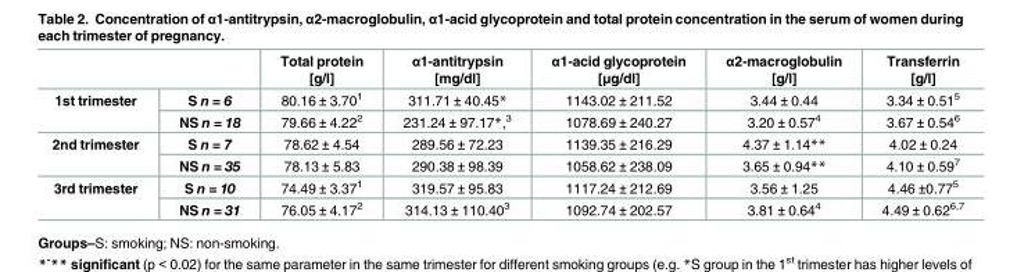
<table><thead><tr><td></td><td></td><td>Total protein [g/l]</td><td>α1-antitrypsin [mg/dl]</td><td>α1-acid glycoprotein [μg/dl]</td><td>α2-macroglobulin [g/l]</td><td>Transferrin [g/l]</td></tr></thead><tbody><tr><td rowspan="2">1st trimester</td><td>S n = 6</td><td>80.16 ± 3.70<sup>1</sup></td><td>311.71 ± 40.45*</td><td>1143.02 ± 211.52</td><td>3.44 ± 0.44</td><td>3.34 ± 0.51<sup>5</sup></td></tr><tr><td>NS n = 18</td><td>79.66 ± 4.22<sup>2</sup></td><td>231.24 ± 97.17*,<sup>3</sup></td><td>1078.69 ± 240.27</td><td>3.20 ± 0.57<sup>4</sup></td><td>3.67 ± 0.54<sup>6</sup></td></tr><tr><td rowspan="2">2nd trimester</td><td>S n = 7</td><td>78.62 ± 4.54</td><td>289.56 ± 72.23</td><td>1139.35 ± 216.29</td><td>4.37 ± 1.14**</td><td>4.02 ± 0.24</td></tr><tr><td>NS n = 35</td><td>78.13 ± 5.83</td><td>290.38 ± 98.39</td><td>1058.62 ± 238.09</td><td>3.65 ± 0.94**</td><td>4.10 ± 0.59<sup>7</sup></td></tr><tr><td rowspan="2">3rd trimester</td><td>S n = 10</td><td>74.49 ± 3.37<sup>1</sup></td><td>319.57 ± 95.83</td><td>1117.24 ± 212.69</td><td>3.56 ± 1.25</td><td>4.46 ±0.77<sup>5</sup></td></tr><tr><td>NS n = 31</td><td>76.05 ± 4.17<sup>2</sup></td><td>314.13 ± 110.40<sup>3</sup></td><td>1092.74 ± 202.57</td><td>3.81 ± 0.64<sup>4</sup></td><td>4.49 ± 0.62<sup>6,7</sup></td></tr></tbody></table>